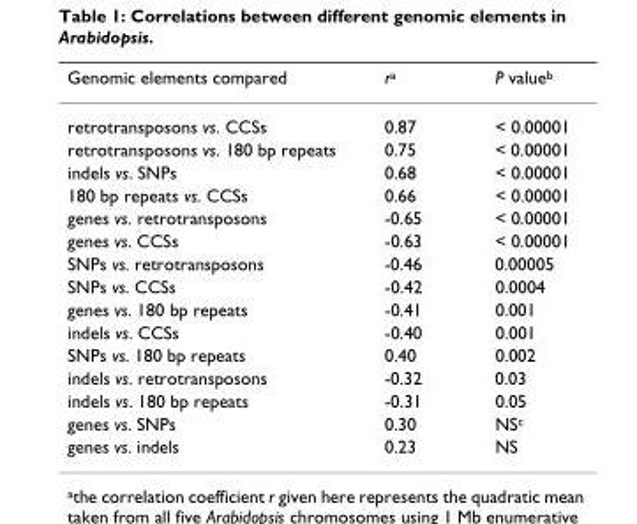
<table><thead><tr><td>Genomic elements compared</td><td>r<sup>a</sup></td><td>P value<sup>b</sup></td></tr></thead><tbody><tr><td>retrotransposons vs. CCSs</td><td>0.87</td><td>&lt; 0.00001</td></tr><tr><td>retrotransposons vs. 180 bp repeats</td><td>0.75</td><td>&lt; 0.00001</td></tr><tr><td>indels vs. SNPs</td><td>0.68</td><td>&lt; 0.00001</td></tr><tr><td>180 bp repeats vs. CCSs</td><td>0.66</td><td>&lt; 0.00001</td></tr><tr><td>genes vs. retrotransposons</td><td>-0.65</td><td>&lt; 0.00001</td></tr><tr><td>genes vs. CCSs</td><td>-0.63</td><td>&lt; 0.00001</td></tr><tr><td>SNPs vs. retrotransposons</td><td>-0.46</td><td>0.00005</td></tr><tr><td>SNPs vs. CCSs</td><td>-0.42</td><td>0.0004</td></tr><tr><td>genes vs. 180 bp repeats</td><td>-0.41</td><td>0.001</td></tr><tr><td>indels vs. CCSs</td><td>-0.40</td><td>0.001</td></tr><tr><td>SNPs vs. 180 bp repeats</td><td>0.40</td><td>0.002</td></tr><tr><td>indels vs. retrotransposons</td><td>-0.32</td><td>0.03</td></tr><tr><td>indels vs. 180 bp repeats</td><td>-0.31</td><td>0.05</td></tr><tr><td>genes vs. SNPs</td><td>0.30</td><td>NS<sup>c</sup></td></tr><tr><td>genes vs. indels</td><td>0.23</td><td>NS</td></tr></tbody></table>